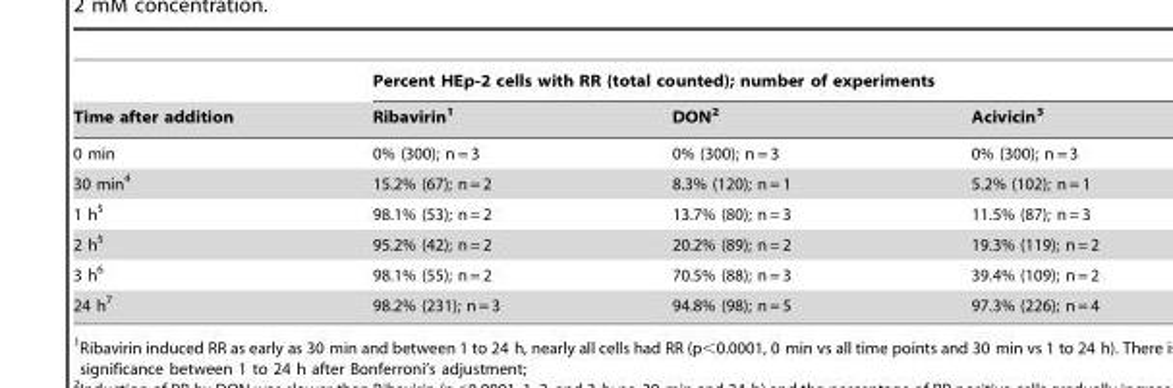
<table><thead><tr><td rowspan="2">Time after addition</td><td colspan="3">Percent HEp-2 cells with RR (total counted); number of experiments</td></tr><tr><td>Ribavirin<sup>1</sup></td><td>DON<sup>2</sup></td><td>Acivicin<sup>3</sup></td></tr></thead><tbody><tr><td>0 min</td><td>0% (300); n = 3</td><td>0% (300); n = 3</td><td>0% (300); n = 3</td></tr><tr><td>30 min<sup>4</sup></td><td>15.2% (67); n = 2</td><td>8.3% (120); n = 1</td><td>5.2% (102); n = 1</td></tr><tr><td>1 h<sup>5</sup></td><td>98.1% (53); n = 2</td><td>13.7% (80); n = 3</td><td>11.5% (87); n = 3</td></tr><tr><td>2 h<sup>5</sup></td><td>95.2% (42); n = 2</td><td>20.2% (89); n = 2</td><td>19.3% (119); n = 2</td></tr><tr><td>3 h<sup>6</sup></td><td>98.1% (55); n = 2</td><td>70.5% (88); n = 3</td><td>39.4% (109); n = 2</td></tr><tr><td>24 h<sup>7</sup></td><td>98.2% (231); n = 3</td><td>94.8% (98); n = 5</td><td>97.3% (226); n = 4</td></tr></tbody></table>